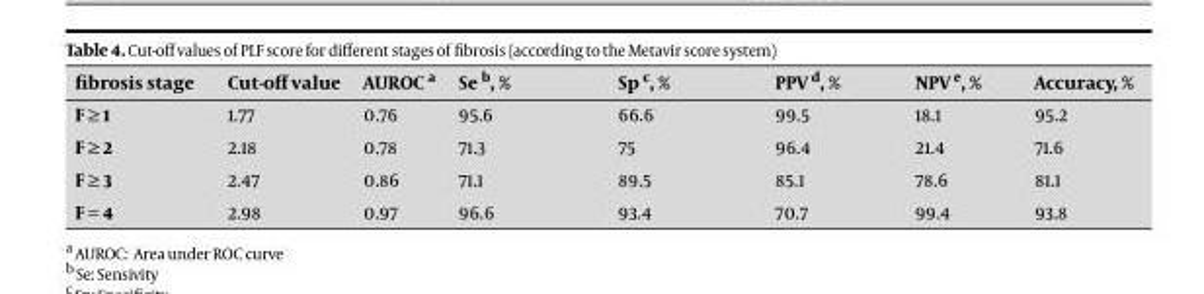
<table><thead><tr><td>fibrosis stage</td><td>Cut-off value</td><td>AUROC <sup>a</sup></td><td>Se <sup>b</sup>, %</td><td>Sp <sup>c</sup>, %</td><td>PPV <sup>d</sup>, %</td><td>NPV <sup>e</sup>, %</td><td>Accuracy, %</td></tr></thead><tbody><tr><td>F ≥ 1</td><td>1.77</td><td>0.76</td><td>95.6</td><td>66.6</td><td>99.5</td><td>18.1</td><td>95.2</td></tr><tr><td>F ≥ 2</td><td>2.18</td><td>0.78</td><td>71.3</td><td>75</td><td>96.4</td><td>21.4</td><td>71.6</td></tr><tr><td>F ≥ 3</td><td>2.47</td><td>0.86</td><td>71.1</td><td>89.5</td><td>85.1</td><td>78.6</td><td>81.1</td></tr><tr><td>F = 4</td><td>2.98</td><td>0.97</td><td>96.6</td><td>93.4</td><td>70.7</td><td>99.4</td><td>93.8</td></tr></tbody></table>